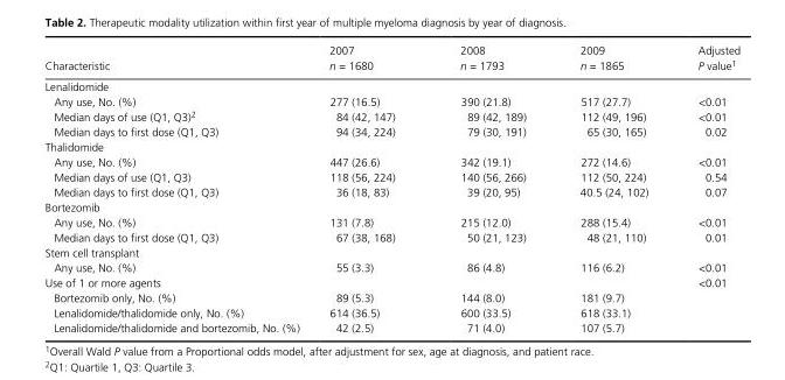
<table><thead><tr><td>Characteristic</td><td>2007 n = 1680</td><td>2008 n = 1793</td><td>2009 n = 1865</td><td>Adjusted P value1</td></tr></thead><tbody><tr><td colspan="5">Lenalidomide</td></tr><tr><td>Any use, No. (%)</td><td>277 (16.5)</td><td>390 (21.8)</td><td>517 (27.7)</td><td>&lt;0.01</td></tr><tr><td>Median days of use (Q1, Q3)2</td><td>84 (42, 147)</td><td>89 (42, 189)</td><td>112 (49, 196)</td><td>&lt;0.01</td></tr><tr><td>Median days to first dose (Q1, Q3)</td><td>94 (34, 224)</td><td>79 (30, 191)</td><td>65 (30, 165)</td><td>0.02</td></tr><tr><td colspan="5">Thalidomide</td></tr><tr><td>Any use, No. (%)</td><td>447 (26.6)</td><td>342 (19.1)</td><td>272 (14.6)</td><td>&lt;0.01</td></tr><tr><td>Median days of use (Q1, Q3)</td><td>118 (56, 224)</td><td>140 (56, 266)</td><td>112 (50, 224)</td><td>0.54</td></tr><tr><td>Median days to first dose (Q1, Q3)</td><td>36 (18, 83)</td><td>39 (20, 95)</td><td>40.5 (24, 102)</td><td>0.07</td></tr><tr><td colspan="5">Bortezomib</td></tr><tr><td>Any use, No. (%)</td><td>131 (7.8)</td><td>215 (12.0)</td><td>288 (15.4)</td><td>&lt;0.01</td></tr><tr><td>Median days to first dose (Q1, Q3)</td><td>67 (38, 168)</td><td>50 (21, 123)</td><td>48 (21, 110)</td><td>0.01</td></tr><tr><td colspan="5">Stem cell transplant</td></tr><tr><td>Any use, No. (%)</td><td>55 (3.3)</td><td>86 (4.8)</td><td>116 (6.2)</td><td>&lt;0.01</td></tr><tr><td>Use of 1 or more agents</td><td></td><td></td><td></td><td>&lt;0.01</td></tr><tr><td>Bortezomib only, No. (%)</td><td>89 (5.3)</td><td>144 (8.0)</td><td>181 (9.7)</td><td></td></tr><tr><td>Lenalidomide/thalidomide only, No. (%)</td><td>614 (36.5)</td><td>600 (33.5)</td><td>618 (33.1)</td><td></td></tr><tr><td>Lenalidomide/thalidomide and bortezomib, No. (%)</td><td>42 (2.5)</td><td>71 (4.0)</td><td>107 (5.7)</td><td></td></tr></tbody></table>